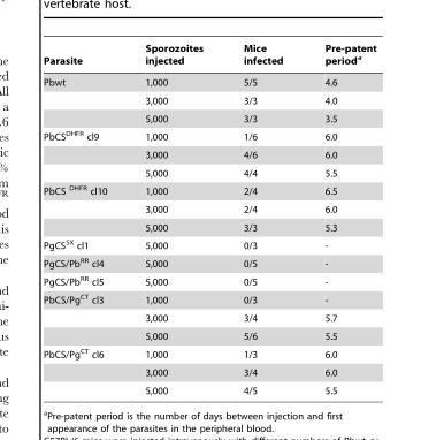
<table><thead><tr><td>Parasite</td><td>Sporozoites injected</td><td>Mice infected</td><td>Pre-patent period<sup>a</sup></td></tr></thead><tbody><tr><td rowspan="3">Pbwt</td><td>1,000</td><td>5/5</td><td>4.6</td></tr><tr><td>3,000</td><td>3/3</td><td>4.0</td></tr><tr><td>5,000</td><td>3/3</td><td>3.5</td></tr><tr><td rowspan="3">PbCS<sup>DHFR</sup> cl9</td><td>1,000</td><td>1/6</td><td>6.0</td></tr><tr><td>3,000</td><td>4/6</td><td>6.0</td></tr><tr><td>5,000</td><td>4/4</td><td>5.5</td></tr><tr><td rowspan="3">PbCS <sup>DHFR</sup> cl10</td><td>1,000</td><td>2/4</td><td>6.5</td></tr><tr><td>3,000</td><td>2/4</td><td>6.0</td></tr><tr><td>5,000</td><td>3/3</td><td>5.3</td></tr><tr><td>PgCS<sup>SX</sup> cl1</td><td>5,000</td><td>0/3</td><td>-</td></tr><tr><td>PgCS/Pb<sup>RR</sup> cl4</td><td>5,000</td><td>0/5</td><td>-</td></tr><tr><td>PgCS/Pb<sup>RR</sup> cl5</td><td>5,000</td><td>0/5</td><td>-</td></tr><tr><td rowspan="3">PbCS/Pg<sup>CT</sup> cl3</td><td>1,000</td><td>0/3</td><td>-</td></tr><tr><td>3,000</td><td>3/4</td><td>5.7</td></tr><tr><td>5,000</td><td>5/6</td><td>5.5</td></tr><tr><td rowspan="3">PbCS/Pg<sup>CT</sup> cl6</td><td>1,000</td><td>1/3</td><td>6.0</td></tr><tr><td>3,000</td><td>3/4</td><td>6.0</td></tr><tr><td>5,000</td><td>4/5</td><td>5.5</td></tr></tbody></table>